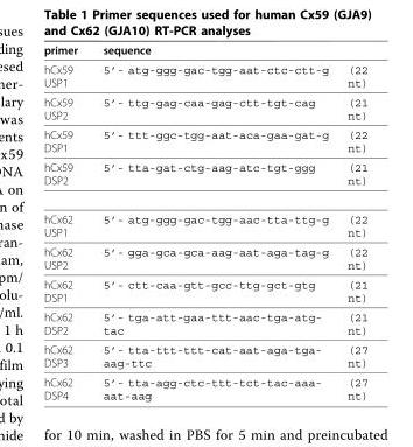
<table><thead><tr><td>primer</td><td>sequence</td><td></td></tr></thead><tbody><tr><td>hCx59 USP1</td><td>5’- atg-ggg-gac-tgg-aat-ctc-ctt-g</td><td>(22 nt)</td></tr><tr><td>hCx59 USP2</td><td>5’- ttg-gag-caa-gag-ctt-tgt-cag</td><td>(21 nt)</td></tr><tr><td>hCx59 DSP1</td><td>5’- ttt-ggc-tgg-aat-aca-gaa-gat-g</td><td>(22 nt)</td></tr><tr><td>hCx59 DSP2</td><td>5’- tta-gat-ctg-aag-atc-tgt-ggg</td><td>(21 nt)</td></tr><tr><td>hCx62 USP1</td><td>5’- atg-ggg-gac-tgg-aac-tta-ttg-g</td><td>(22 nt)</td></tr><tr><td>hCx62 USP2</td><td>5’- gga-gca-gca-aag-aat-aga-tag-g</td><td>(22 nt)</td></tr><tr><td>hCx62 DSP1</td><td>5’- ctt-caa-gtt-gcc-ttg-gct-gtg</td><td>(21 nt)</td></tr><tr><td>hCx62 DSP2</td><td>5’- tga-att-gaa-ttt-aac-tga-atg- tac</td><td>(21 nt)</td></tr><tr><td>hCx62 DSP3</td><td>5’- tta-ttt-ttt-cat-aat-aga-tga- aag-ttc</td><td>(27 nt)</td></tr><tr><td>hCx62 DSP4</td><td>5’- tta-agg-ctc-ttt-tct-tac-aaa- aat-aag</td><td>(27 nt)</td></tr></tbody></table>